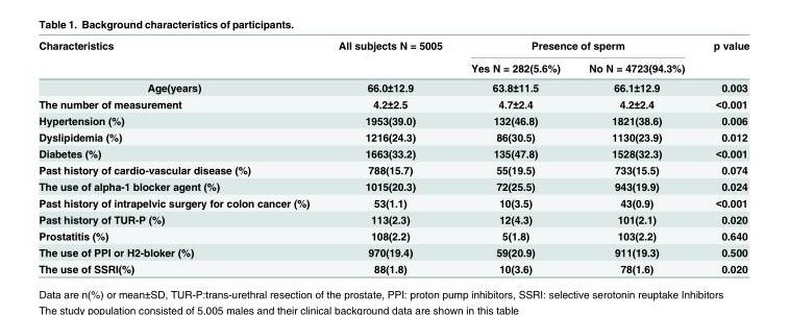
<table><thead><tr><td rowspan="2">Characteristics</td><td rowspan="2">All subjects N = 5005</td><td colspan="2">Presence of sperm</td><td rowspan="2">p value</td></tr><tr><td>Yes N = 282(5.6%)</td><td>No N = 4723(94.3%)</td></tr></thead><tbody><tr><td>Age(years)</td><td>66.0±12.9</td><td>63.8±11.5</td><td>66.1±12.9</td><td>0.003</td></tr><tr><td>The number of measurement</td><td>4.2±2.5</td><td>4.7±2.4</td><td>4.2±2.4</td><td>&lt;0.001</td></tr><tr><td>Hypertension (%)</td><td>1953(39.0)</td><td>132(46.8)</td><td>1821(38.6)</td><td>0.006</td></tr><tr><td>Dyslipidemia (%)</td><td>1216(24.3)</td><td>86(30.5)</td><td>1130(23.9)</td><td>0.012</td></tr><tr><td>Diabetes (%)</td><td>1663(33.2)</td><td>135(47.8)</td><td>1528(32.3)</td><td>&lt;0.001</td></tr><tr><td>Past history of cardio-vascular disease (%)</td><td>788(15.7)</td><td>55(19.5)</td><td>733(15.5)</td><td>0.074</td></tr><tr><td>The use of alpha-1 blocker agent (%)</td><td>1015(20.3)</td><td>72(25.5)</td><td>943(19.9)</td><td>0.024</td></tr><tr><td>Past history of intrapelvic surgery for colon cancer (%)</td><td>53(1.1)</td><td>10(3.5)</td><td>43(0.9)</td><td>&lt;0.001</td></tr><tr><td>Past history of TUR-P (%)</td><td>113(2.3)</td><td>12(4.3)</td><td>101(2.1)</td><td>0.020</td></tr><tr><td>Prostatitis (%)</td><td>108(2.2)</td><td>5(1.8)</td><td>103(2.2)</td><td>0.640</td></tr><tr><td>The use of PPI or H2-bloker (%)</td><td>970(19.4)</td><td>59(20.9)</td><td>911(19.3)</td><td>0.500</td></tr><tr><td>The use of SSRI(%)</td><td>88(1.8)</td><td>10(3.6)</td><td>78(1.6)</td><td>0.020</td></tr></tbody></table>